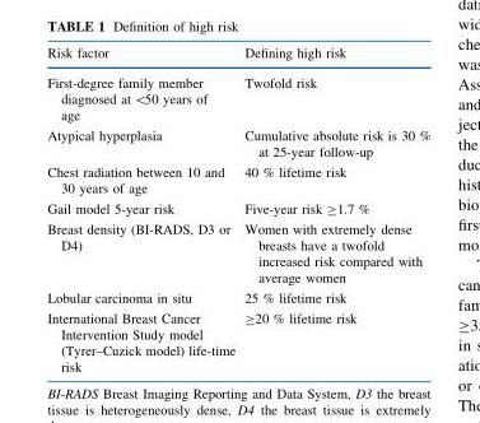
<table><thead><tr><td>Risk factor</td><td>Defining high risk</td></tr></thead><tbody><tr><td>First-degree family member diagnosed at &lt;50 years of age</td><td>Twofold risk</td></tr><tr><td>Atypical hyperplasia</td><td>Cumulative absolute risk is 30 % at 25-year follow-up</td></tr><tr><td>Chest radiation between 10 and 30 years of age</td><td>40 % lifetime risk</td></tr><tr><td>Gail model 5-year risk</td><td>Five-year risk ≥1.7 %</td></tr><tr><td>Breast density (BI-RADS, D3 or D4)</td><td>Women with extremely dense breasts have a twofold increased risk compared with average women</td></tr><tr><td>Lobular carcinoma in situ</td><td>25 % lifetime risk</td></tr><tr><td>International Breast Cancer Intervention Study model (Tyrer–Cuzick model) life-time risk</td><td>≥20 % lifetime risk</td></tr></tbody></table>